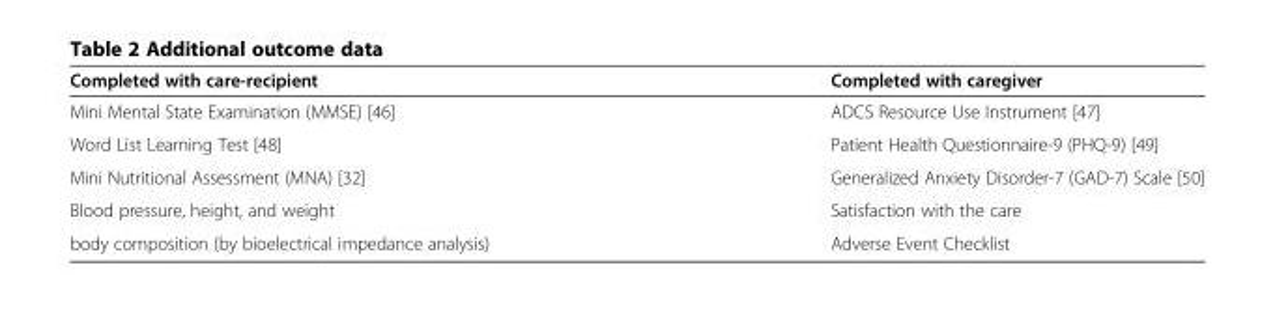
<table><thead><tr><td>Completed with care-recipient</td><td>Completed with caregiver</td></tr></thead><tbody><tr><td>Mini Mental State Examination (MMSE) [46]</td><td>ADCS Resource Use Instrument [47]</td></tr><tr><td>Word List Learning Test [48]</td><td>Patient Health Questionnaire-9 (PHQ-9) [49]</td></tr><tr><td>Mini Nutritional Assessment (MNA) [32]</td><td>Generalized Anxiety Disorder-7 (GAD-7) Scale [50]</td></tr><tr><td>Blood pressure, height, and weight</td><td>Satisfaction with the care</td></tr><tr><td>body composition (by bioelectrical impedance analysis)</td><td>Adverse Event Checklist</td></tr></tbody></table>